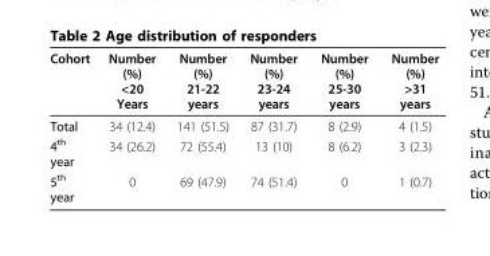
<table><thead><tr><td>Cohort</td><td>Number (%) &lt;20 Years</td><td>Number (%) 21-22 years</td><td>Number (%) 23-24 years</td><td>Number (%) 25-30 years</td><td>Number (%) &gt;31 years</td></tr></thead><tbody><tr><td>Total</td><td>34 (12.4)</td><td>141 (51.5)</td><td>87 (31.7)</td><td>8 (2.9)</td><td>4 (1.5)</td></tr><tr><td>4<sup>th</sup> year</td><td>34 (26.2)</td><td>72 (55.4)</td><td>13 (10)</td><td>8 (6.2)</td><td>3 (2.3)</td></tr><tr><td>5<sup>th</sup> year</td><td>0</td><td>69 (47.9)</td><td>74 (51.4)</td><td>0</td><td>1 (0.7)</td></tr></tbody></table>